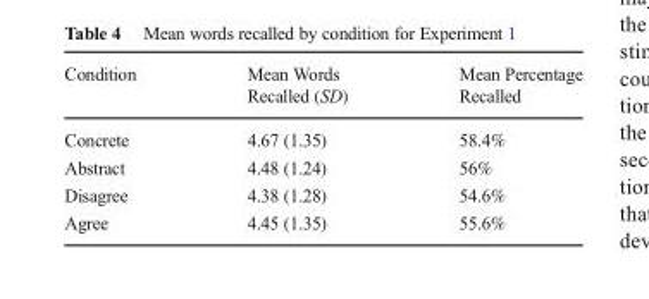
<table><thead><tr><td>Condition</td><td>Mean Words Recalled (SD)</td><td>Mean Percentage Recalled</td></tr></thead><tbody><tr><td>Concrete</td><td>4.67 (1.35)</td><td>58.4%</td></tr><tr><td>Abstract</td><td>4.48 (1.24)</td><td>56%</td></tr><tr><td>Disagree</td><td>4.38 (1.28)</td><td>54.6%</td></tr><tr><td>Agree</td><td>4.45 (1.35)</td><td>55.6%</td></tr></tbody></table>